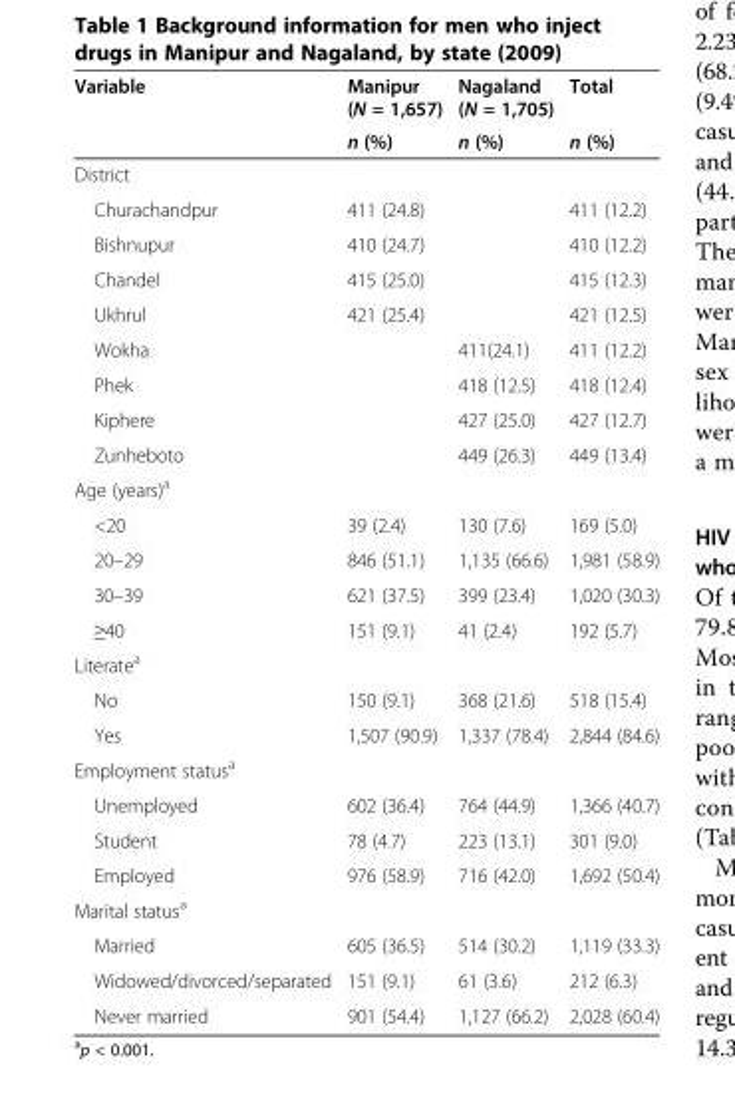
<table><thead><tr><td rowspan="2">Variable</td><td rowspan="2">Manipur (N = 1,657) n (%)</td><td rowspan="2">Nagaland (N = 1,705) n (%)</td><td rowspan="2">Total n (%)</td></tr><tr></tr></thead><tbody><tr><td colspan="4">District</td></tr><tr><td>Churachandpur</td><td>411 (24.8)</td><td></td><td>411 (12.2)</td></tr><tr><td>Bishnupur</td><td>410 (24.7)</td><td></td><td>410 (12.2)</td></tr><tr><td>Chandel</td><td>415 (25.0)</td><td></td><td>415 (12.3)</td></tr><tr><td>Ukhrul</td><td>421 (25.4)</td><td></td><td>421 (12.5)</td></tr><tr><td>Wokha</td><td></td><td>411(24.1)</td><td>411 (12.2)</td></tr><tr><td>Phek</td><td></td><td>418 (12.5)</td><td>418 (12.4)</td></tr><tr><td>Kiphere</td><td></td><td>427 (25.0)</td><td>427 (12.7)</td></tr><tr><td>Zunheboto</td><td></td><td>449 (26.3)</td><td>449 (13.4)</td></tr><tr><td colspan="4">Age (years)<sup>a</sup></td></tr><tr><td>&lt;20</td><td>39 (2.4)</td><td>130 (7.6)</td><td>169 (5.0)</td></tr><tr><td>20–29</td><td>846 (51.1)</td><td>1,135 (66.6)</td><td>1,981 (58.9)</td></tr><tr><td>30–39</td><td>621 (37.5)</td><td>399 (23.4)</td><td>1,020 (30.3)</td></tr><tr><td>≥40</td><td>151 (9.1)</td><td>41 (2.4)</td><td>192 (5.7)</td></tr><tr><td colspan="4">Literate<sup>a</sup></td></tr><tr><td>No</td><td>150 (9.1)</td><td>368 (21.6)</td><td>518 (15.4)</td></tr><tr><td>Yes</td><td>1,507 (90.9)</td><td>1,337 (78.4)</td><td>2,844 (84.6)</td></tr><tr><td colspan="4">Employment status<sup>a</sup></td></tr><tr><td>Unemployed</td><td>602 (36.4)</td><td>764 (44.9)</td><td>1,366 (40.7)</td></tr><tr><td>Student</td><td>78 (4.7)</td><td>223 (13.1)</td><td>301 (9.0)</td></tr><tr><td>Employed</td><td>976 (58.9)</td><td>716 (42.0)</td><td>1,692 (50.4)</td></tr><tr><td colspan="4">Marital status<sup>a</sup></td></tr><tr><td>Married</td><td>605 (36.5)</td><td>514 (30.2)</td><td>1,119 (33.3)</td></tr><tr><td>Widowed/divorced/separated</td><td>151 (9.1)</td><td>61 (3.6)</td><td>212 (6.3)</td></tr><tr><td>Never married</td><td>901 (54.4)</td><td>1,127 (66.2)</td><td>2,028 (60.4)</td></tr></tbody></table>